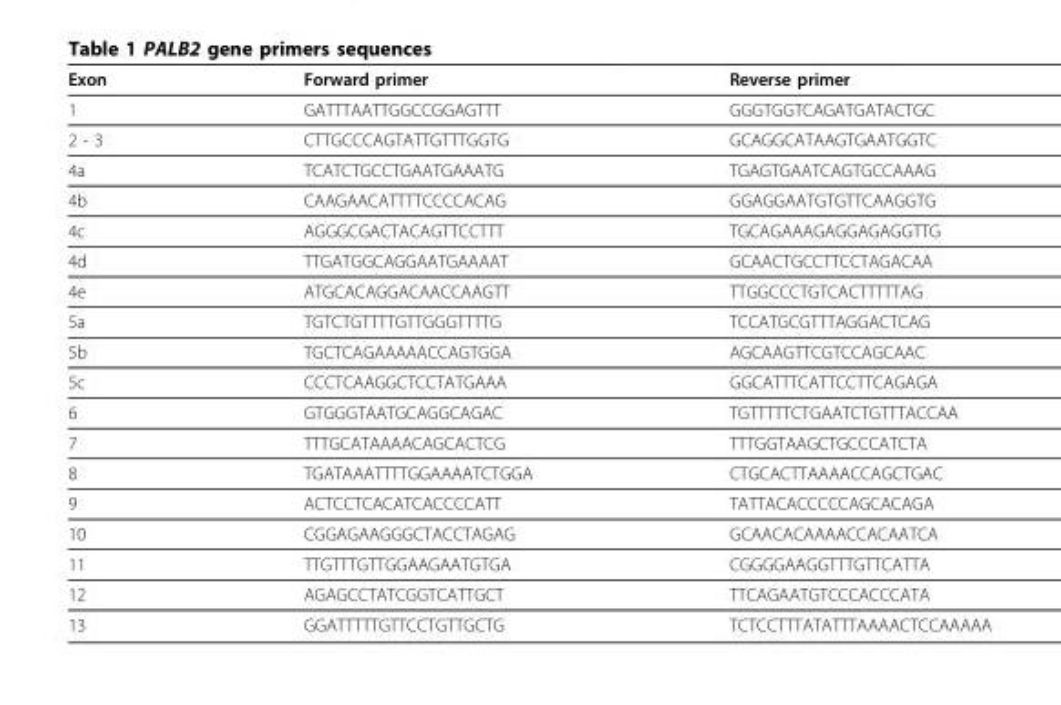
<table><thead><tr><td>Exon</td><td>Forward primer</td><td>Reverse primer</td></tr></thead><tbody><tr><td>1</td><td>GATTTAATTGGCCGGAGTTT</td><td>GGGTGGTCAGATGATACTGC</td></tr><tr><td>2 - 3</td><td>CTTGCCCAGTATTGTTTGGTG</td><td>GCAGGCATAAGTGAATGGTC</td></tr><tr><td>4a</td><td>TCATCTGCCTGAATGAAATG</td><td>TGAGTGAATCAGTGCCAAAG</td></tr><tr><td>4b</td><td>CAAGAACATTTTCCCCACAG</td><td>GGAGGAATGTGTTCAAGGTG</td></tr><tr><td>4c</td><td>AGGGCGACTACAGTTCCTTT</td><td>TGCAGAAAGAGGAGAGGTTG</td></tr><tr><td>4d</td><td>TTGATGGCAGGAATGAAAAT</td><td>GCAACTGCCTTCCTAGACAA</td></tr><tr><td>4e</td><td>ATGCACAGGACAACCAAGTT</td><td>TTGGCCCTGTCACTTTTTAG</td></tr><tr><td>5a</td><td>TGTCTGTTTTGTTGGGTTTTG</td><td>TCCATGCGTTTAGGACTCAG</td></tr><tr><td>5b</td><td>TGCTCAGAAAAACCAGTGGA</td><td>AGCAAGTTCGTCCAGCAAC</td></tr><tr><td>5c</td><td>CCCTCAAGGCTCCTATGAAA</td><td>GGCATTTCATTCCTTCAGAGA</td></tr><tr><td>6</td><td>GTGGGTAATGCAGGCAGAC</td><td>TGTTTTTCTGAATCTGTTTACCAA</td></tr><tr><td>7</td><td>TTTGCATAAAACAGCACTCG</td><td>TTTGGTAAGCTGCCCATCTA</td></tr><tr><td>8</td><td>TGATAAATTTTGGAAAATCTGGA</td><td>CTGCACTTAAAACCAGCTGAC</td></tr><tr><td>9</td><td>ACTCCTCACATCACCCCATT</td><td>TATTACACCCCCAGCACAGA</td></tr><tr><td>10</td><td>CGGAGAAGGGCTACCTAGAG</td><td>GCAACACAAAACCACAATCA</td></tr><tr><td>11</td><td>TTGTTTGTTGGAAGAATGTGA</td><td>CGGGGAAGGTTTGTTCATTA</td></tr><tr><td>12</td><td>AGAGCCTATCGGTCATTGCT</td><td>TTCAGAATGTCCCACCCATA</td></tr><tr><td>13</td><td>GGATTTTTGTTCCTGTTGCTG</td><td>TCTCCTTTATATTTAAAACTCCAAAAA</td></tr></tbody></table>